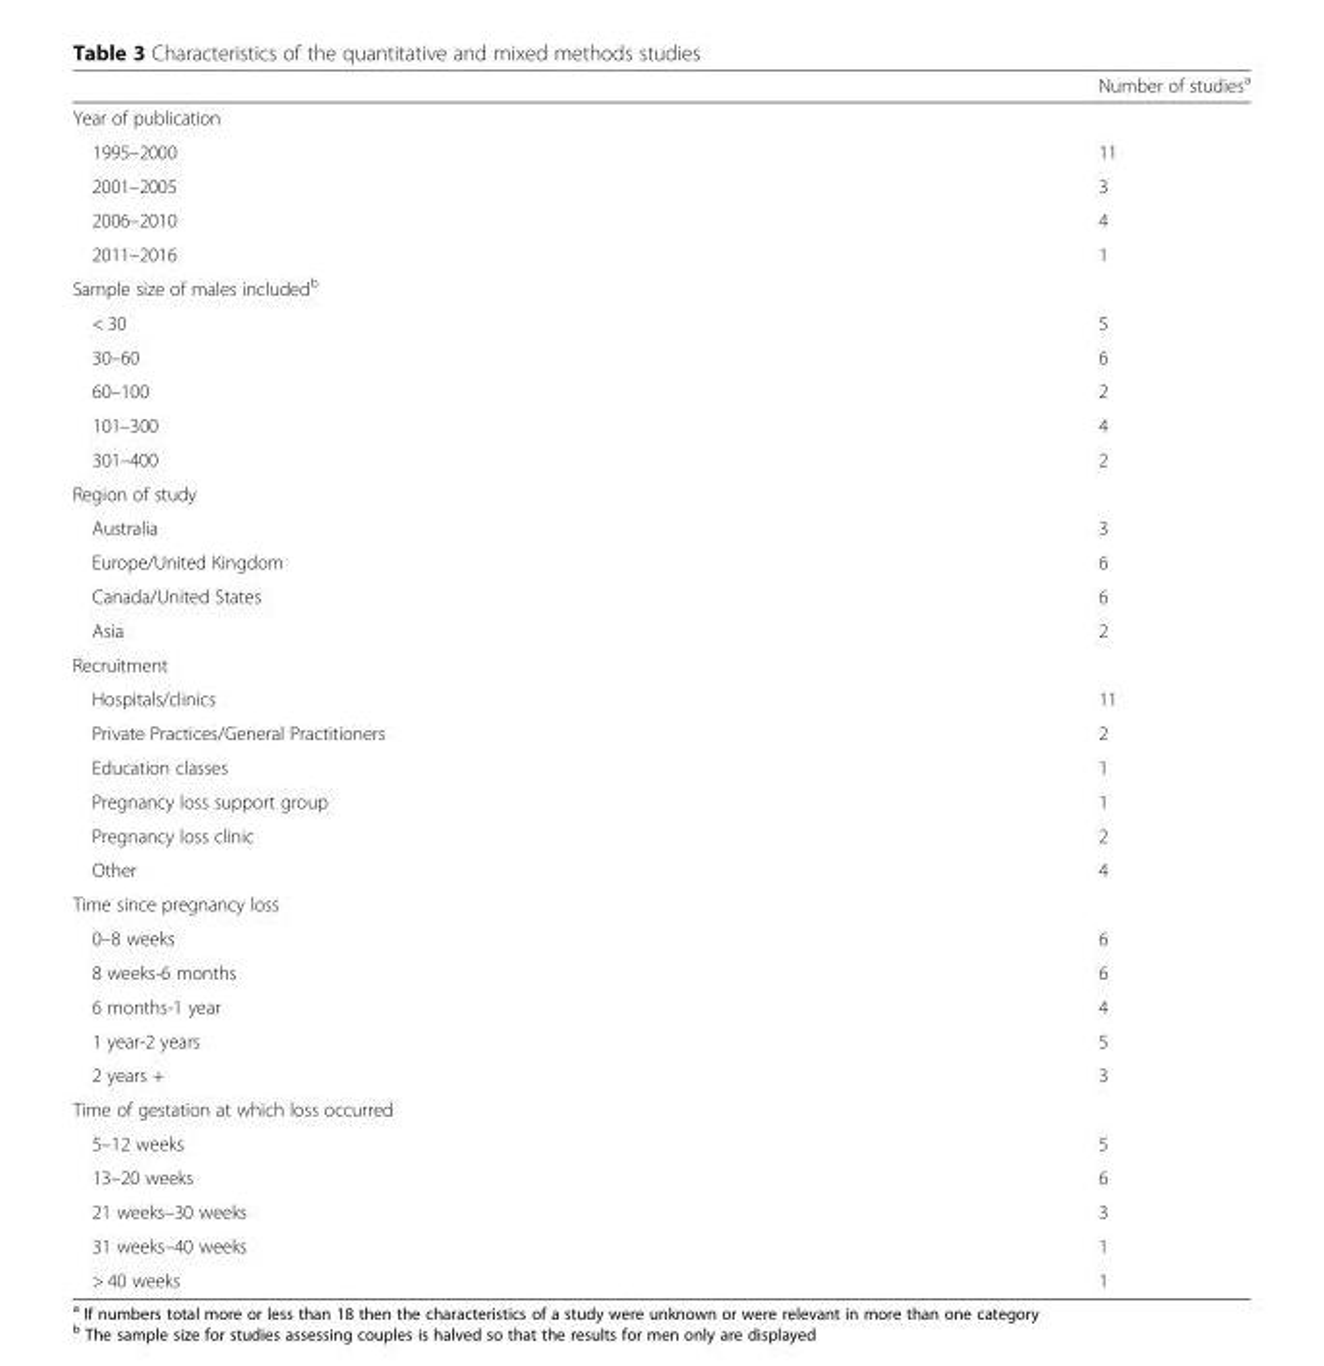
<table><thead><tr><td></td><td>Number of studies<sup>a</sup></td></tr></thead><tbody><tr><td colspan="2">Year of publication</td></tr><tr><td>1995–2000</td><td>11</td></tr><tr><td>2001–2005</td><td>3</td></tr><tr><td>2006–2010</td><td>4</td></tr><tr><td>2011–2016</td><td>1</td></tr><tr><td colspan="2">Sample size of males included<sup>b</sup></td></tr><tr><td>&lt; 30</td><td>5</td></tr><tr><td>30–60</td><td>6</td></tr><tr><td>60–100</td><td>2</td></tr><tr><td>101–300</td><td>4</td></tr><tr><td>301–400</td><td>2</td></tr><tr><td colspan="2">Region of study</td></tr><tr><td>Australia</td><td>3</td></tr><tr><td>Europe/United Kingdom</td><td>6</td></tr><tr><td>Canada/United States</td><td>6</td></tr><tr><td>Asia</td><td>2</td></tr><tr><td colspan="2">Recruitment</td></tr><tr><td>Hospitals/clinics</td><td>11</td></tr><tr><td>Private Practices/General Practitioners</td><td>2</td></tr><tr><td>Education classes</td><td>1</td></tr><tr><td>Pregnancy loss support group</td><td>1</td></tr><tr><td>Pregnancy loss clinic</td><td>2</td></tr><tr><td>Other</td><td>4</td></tr><tr><td colspan="2">Time since pregnancy loss</td></tr><tr><td>0–8 weeks</td><td>6</td></tr><tr><td>8 weeks-6 months</td><td>6</td></tr><tr><td>6 months-1 year</td><td>4</td></tr><tr><td>1 year-2 years</td><td>5</td></tr><tr><td>2 years +</td><td>3</td></tr><tr><td colspan="2">Time of gestation at which loss occurred</td></tr><tr><td>5–12 weeks</td><td>5</td></tr><tr><td>13–20 weeks</td><td>6</td></tr><tr><td>21 weeks–30 weeks</td><td>3</td></tr><tr><td>31 weeks–40 weeks</td><td>1</td></tr><tr><td>&gt; 40 weeks</td><td>1</td></tr></tbody></table>